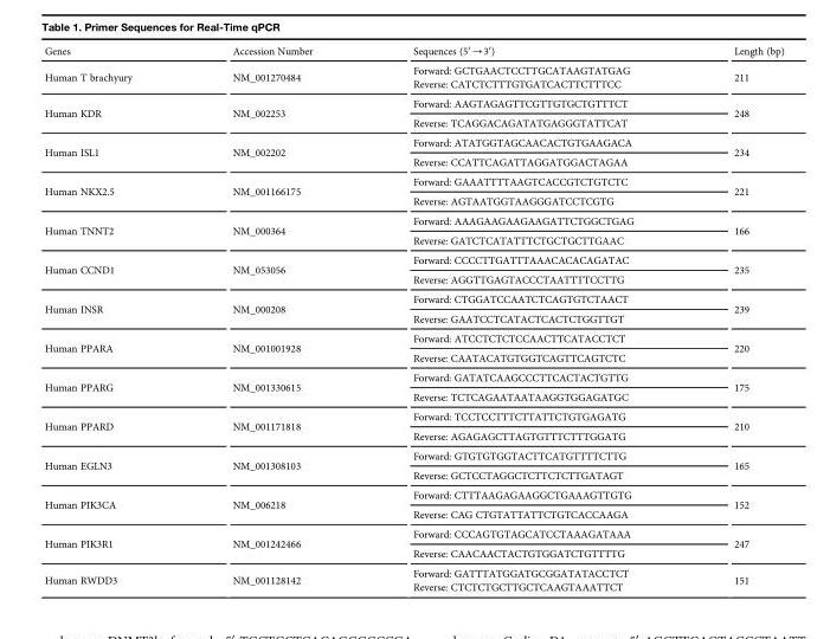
<table><thead><tr><td>Genes</td><td>Accession Number</td><td>Sequences (5′→3′)</td><td>Length (bp)</td></tr></thead><tbody><tr><td>Human T brachyury</td><td>NM_001270484</td><td>Forward: GCTGAACTCCTTGCATAAGTATGAG Reverse: CATCTCTTTGTGATCACTTCTTTCC</td><td>211</td></tr><tr><td rowspan="2">Human KDR</td><td rowspan="2">NM_002253</td><td>Forward: AAGTAGAGTTCGTTGTGCTGTTTCT</td><td rowspan="2">248</td></tr><tr><td>Reverse: TCAGGACAGATATGAGGGTATTCAT</td></tr><tr><td rowspan="2">Human ISL1</td><td rowspan="2">NM_002202</td><td>Forward: ATATGGTAGCAACACTGTGAAGACA</td><td rowspan="2">234</td></tr><tr><td>Reverse: CCATTCAGATTAGGATGGACTAGAA</td></tr><tr><td rowspan="2">Human NKX2.5</td><td rowspan="2">NM_001166175</td><td>Forward: GAAATTTTAAGTCACCGTCTGTCTC</td><td rowspan="2">221</td></tr><tr><td>Reverse: AGTAATGGTAAGGGATCCTCGTG</td></tr><tr><td rowspan="2">Human TNNT2</td><td rowspan="2">NM_000364</td><td>Forward: AAAGAAGAAGAAGATTCTGGCTGAG</td><td rowspan="2">166</td></tr><tr><td>Reverse: GATCTCATATTTCTGCTGCTTGAAC</td></tr><tr><td rowspan="2">Human CCND1</td><td rowspan="2">NM_053056</td><td>Forward: CCCCTTGATTTAAACACACAGATAC</td><td rowspan="2">235</td></tr><tr><td>Reverse: AGGTTGAGTACCCTAATTTTCCTTG</td></tr><tr><td rowspan="2">Human INSR</td><td rowspan="2">NM_000208</td><td>Forward: CTGGATCCAATCTCAGTGTCTAACT</td><td rowspan="2">239</td></tr><tr><td>Reverse: GAATCCTCATACTCACTCTGGTTGT</td></tr><tr><td rowspan="2">Human PPARA</td><td rowspan="2">NM_001001928</td><td>Forward: ATCCTCTCTCCAACTTCATACCTCT</td><td rowspan="2">220</td></tr><tr><td>Reverse: CAATACATGTGGTCAGTTCAGTCTC</td></tr><tr><td rowspan="2">Human PPARG</td><td rowspan="2">NM_001330615</td><td>Forward: GATATCAAGCCCTTCACTACTGTTG</td><td rowspan="2">175</td></tr><tr><td>Reverse: TCTCAGAATAATAAGGTGGAGATGC</td></tr><tr><td rowspan="2">Human PPARD</td><td rowspan="2">NM_001171818</td><td>Forward: TCCTCCTTTCTTATTCTGTGAGATG</td><td rowspan="2">210</td></tr><tr><td>Reverse: AGAGAGCTTAGTGTTTCTTTGGATG</td></tr><tr><td rowspan="2">Human EGLN3</td><td rowspan="2">NM_001308103</td><td>Forward: GTGTGTGGTACTTCATGTTTTCTTG</td><td rowspan="2">165</td></tr><tr><td>Reverse: GCTCCTAGGCTCTTCTCTTGATAGT</td></tr><tr><td rowspan="2">Human PIK3CA</td><td rowspan="2">NM_006218</td><td>Forward: CTTTAAGAGAAGGCTGAAAGTTGTG</td><td rowspan="2">152</td></tr><tr><td>Reverse: CAG CTGTATTATTCTGTCACCAAGA</td></tr><tr><td rowspan="2">Human PIK3R1</td><td rowspan="2">NM_001242466</td><td>Forward: CCCAGTGTAGCATCCTAAAGATAAA</td><td rowspan="2">247</td></tr><tr><td>Reverse: CAACAACTACTGTGGATCTGTTTTG</td></tr><tr><td>Human RWDD3</td><td>NM_001128142</td><td>Forward: GATTTATGGATGCGGATATACCTCT Reverse: CTCTCTGCTTGCTCAAGTAAATTCT</td><td>151</td></tr></tbody></table>